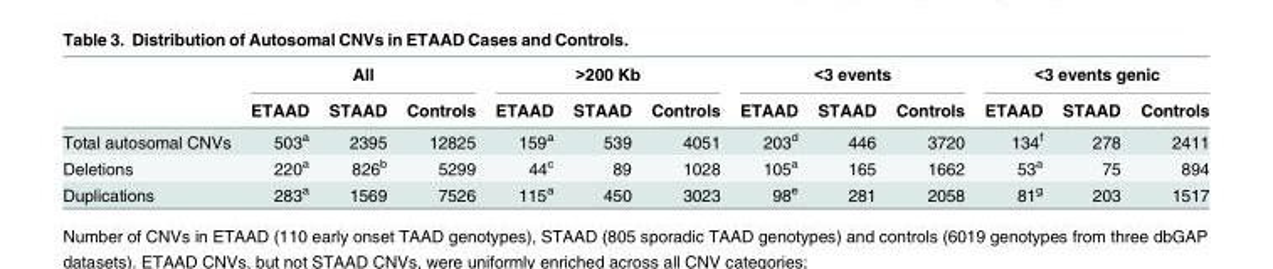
<table><thead><tr><td rowspan="2"></td><td colspan="3">All</td><td colspan="3">&gt;200 Kb</td><td colspan="3">&lt;3 events</td><td colspan="3">&lt;3 events genic</td></tr><tr><td>ETAAD</td><td>STAAD</td><td>Controls</td><td>ETAAD</td><td>STAAD</td><td>Controls</td><td>ETAAD</td><td>STAAD</td><td>Controls</td><td>ETAAD</td><td>STAAD</td><td>Controls</td></tr></thead><tbody><tr><td>Total autosomal CNVs</td><td>503<sup>a</sup></td><td>2395</td><td>12825</td><td>159<sup>a</sup></td><td>539</td><td>4051</td><td>203<sup>d</sup></td><td>446</td><td>3720</td><td>134<sup>f</sup></td><td>278</td><td>2411</td></tr><tr><td>Deletions</td><td>220<sup>a</sup></td><td>826<sup>b</sup></td><td>5299</td><td>44<sup>c</sup></td><td>89</td><td>1028</td><td>105<sup>a</sup></td><td>165</td><td>1662</td><td>53<sup>a</sup></td><td>75</td><td>894</td></tr><tr><td>Duplications</td><td>283<sup>a</sup></td><td>1569</td><td>7526</td><td>115<sup>a</sup></td><td>450</td><td>3023</td><td>98<sup>e</sup></td><td>281</td><td>2058</td><td>81<sup>g</sup></td><td>203</td><td>1517</td></tr></tbody></table>